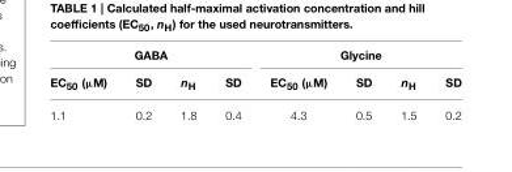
<table><thead><tr><td colspan="4">GABA</td><td colspan="4">Glycine</td></tr><tr><td>EC<sub>50</sub> (µM)</td><td>SD</td><td>n<sub>H</sub></td><td>SD</td><td>EC<sub>50</sub> (µM)</td><td>SD</td><td>n<sub>H</sub></td><td>SD</td></tr></thead><tbody><tr><td>1.1</td><td>0.2</td><td>1.8</td><td>0.4</td><td>4.3</td><td>0.5</td><td>1.5</td><td>0.2</td></tr></tbody></table>